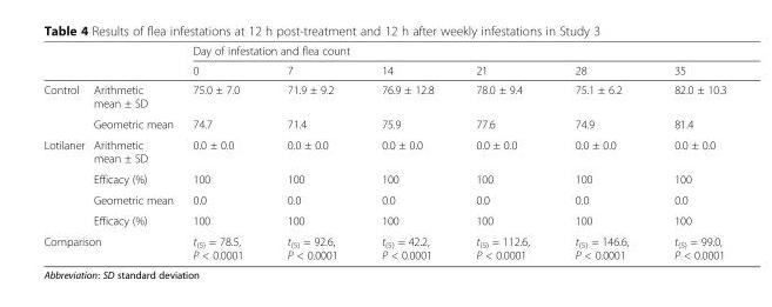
<table><thead><tr><td rowspan="2"></td><td rowspan="2"></td><td colspan="6">Day of infestation and flea count</td></tr><tr><td>0</td><td>7</td><td>14</td><td>21</td><td>28</td><td>35</td></tr></thead><tbody><tr><td rowspan="2">Control</td><td>Arithmetic mean ± SD</td><td>75.0 ± 7.0</td><td>71.9 ± 9.2</td><td>76.9 ± 12.8</td><td>78.0 ± 9.4</td><td>75.1 ± 6.2</td><td>82.0 ± 10.3</td></tr><tr><td>Geometric mean</td><td>74.7</td><td>71.4</td><td>75.9</td><td>77.6</td><td>74.9</td><td>81.4</td></tr><tr><td rowspan="4">Lotilaner</td><td>Arithmetic mean ± SD</td><td>0.0 ± 0.0</td><td>0.0 ± 0.0</td><td>0.0 ± 0.0</td><td>0.0 ± 0.0</td><td>0.0 ± 0.0</td><td>0.0 ± 0.0</td></tr><tr><td>Efficacy (%)</td><td>100</td><td>100</td><td>100</td><td>100</td><td>100</td><td>100</td></tr><tr><td>Geometric mean</td><td>0.0</td><td>0.0</td><td>0.0</td><td>0.0</td><td>0.0</td><td>0.0</td></tr><tr><td>Efficacy (%)</td><td>100</td><td>100</td><td>100</td><td>100</td><td>100</td><td>100</td></tr><tr><td colspan="2">Comparison</td><td>t<sub>(5)</sub> = 78.5, P &lt; 0.0001</td><td>t<sub>(5)</sub> = 92.6, P &lt; 0.0001</td><td>t<sub>(5)</sub> = 42.2, P &lt; 0.0001</td><td>t<sub>(5)</sub> = 112.6, P &lt; 0.0001</td><td>t<sub>(5)</sub> = 146.6, P &lt; 0.0001</td><td>t<sub>(5)</sub> = 99.0, P &lt; 0.0001</td></tr></tbody></table>